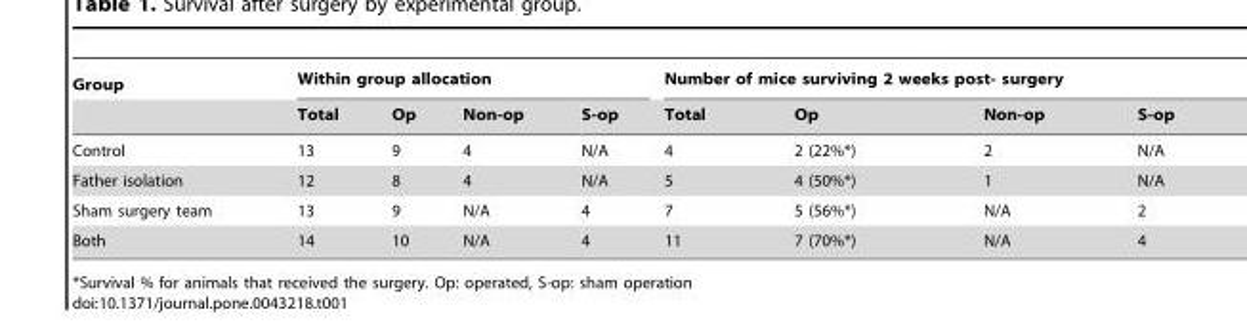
<table><thead><tr><td rowspan="2">Group</td><td colspan="4">Within group allocation</td><td colspan="4">Number of mice surviving 2 weeks post- surgery</td></tr><tr><td>Total</td><td>Op</td><td>Non-op</td><td>S-op</td><td>Total</td><td>Op</td><td>Non-op</td><td>S-op</td></tr></thead><tbody><tr><td>Control</td><td>13</td><td>9</td><td>4</td><td>N/A</td><td>4</td><td>2 (22%*)</td><td>2</td><td>N/A</td></tr><tr><td>Father isolation</td><td>12</td><td>8</td><td>4</td><td>N/A</td><td>5</td><td>4 (50%*)</td><td>1</td><td>N/A</td></tr><tr><td>Sham surgery team</td><td>13</td><td>9</td><td>N/A</td><td>4</td><td>7</td><td>5 (56%*)</td><td>N/A</td><td>2</td></tr><tr><td>Both</td><td>14</td><td>10</td><td>N/A</td><td>4</td><td>11</td><td>7 (70%*)</td><td>N/A</td><td>4</td></tr></tbody></table>